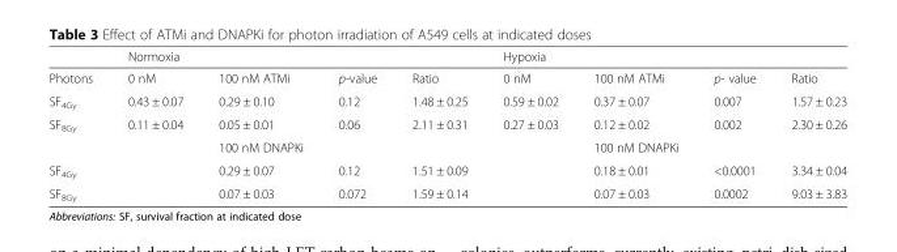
<table><thead><tr><td rowspan="2">Photons</td><td colspan="4">Normoxia</td><td colspan="4">Hypoxia</td></tr><tr><td>0 nM</td><td>100 nM ATMi</td><td>p-value</td><td>Ratio</td><td>0 nM</td><td>100 nM ATMi</td><td>p- value</td><td>Ratio</td></tr></thead><tbody><tr><td>SF<sub>4Gy</sub></td><td>0.43 ± 0.07</td><td>0.29 ± 0.10</td><td>0.12</td><td>1.48 ± 0.25</td><td>0.59 ± 0.02</td><td>0.37 ± 0.07</td><td>0.007</td><td>1.57 ± 0.23</td></tr><tr><td rowspan="2">SF<sub>8Gy</sub></td><td>0.11 ± 0.04</td><td>0.05 ± 0.01</td><td>0.06</td><td>2.11 ± 0.31</td><td>0.27 ± 0.03</td><td>0.12 ± 0.02</td><td>0.002</td><td>2.30 ± 0.26</td></tr><tr><td></td><td>100 nM DNAPKi</td><td></td><td></td><td></td><td>100 nM DNAPKi</td><td></td><td></td></tr><tr><td>SF<sub>4Gy</sub></td><td></td><td>0.29 ± 0.07</td><td>0.12</td><td>1.51 ± 0.09</td><td></td><td>0.18 ± 0.01</td><td>&lt;0.0001</td><td>3.34 ± 0.04</td></tr><tr><td>SF<sub>8Gy</sub></td><td></td><td>0.07 ± 0.03</td><td>0.072</td><td>1.59 ± 0.14</td><td></td><td>0.07 ± 0.03</td><td>0.0002</td><td>9.03 ± 3.83</td></tr></tbody></table>